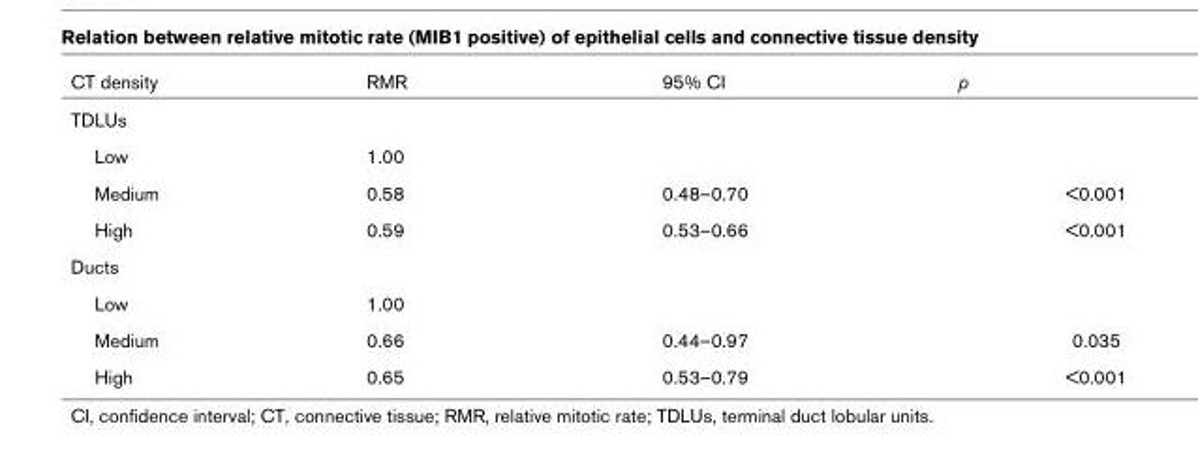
<table><thead><tr><td>CT density</td><td>RMR</td><td>95% CI</td><td>p</td></tr></thead><tbody><tr><td colspan="4">TDLUs</td></tr><tr><td>Low</td><td>1.00</td><td></td><td></td></tr><tr><td>Medium</td><td>0.58</td><td>0.48–0.70</td><td>&lt;0.001</td></tr><tr><td>High</td><td>0.59</td><td>0.53–0.66</td><td>&lt;0.001</td></tr><tr><td colspan="4">Ducts</td></tr><tr><td>Low</td><td>1.00</td><td></td><td></td></tr><tr><td>Medium</td><td>0.66</td><td>0.44–0.97</td><td>0.035</td></tr><tr><td>High</td><td>0.65</td><td>0.53–0.79</td><td>&lt;0.001</td></tr></tbody></table>